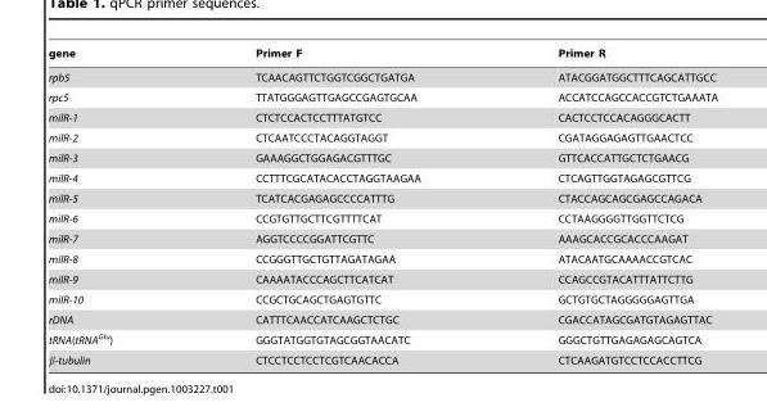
<table><thead><tr><td>gene</td><td>Primer F</td><td>Primer R</td></tr></thead><tbody><tr><td>rpb5</td><td>TCAACAGTTCTGGTCGGCTGATGA</td><td>ATACGGATGGCTTTCAGCATTGCC</td></tr><tr><td>rpc5</td><td>TTATGGGAGTTGAGCCGAGTGCAA</td><td>ACCATCCAGCCACCGTCTGAAATA</td></tr><tr><td>milR-1</td><td>CTCTCCACTCCTTTATGTCC</td><td>CACTCCTCCACAGGGCACTT</td></tr><tr><td>milR-2</td><td>CTCAATCCCTACAGGTAGGT</td><td>CGATAGGAGAGTTGAACTCC</td></tr><tr><td>milR-3</td><td>GAAAGGCTGGAGACGTTTGC</td><td>GTTCACCATTGCTCTGAACG</td></tr><tr><td>milR-4</td><td>CCTTTCGCATACACCTAGGTAAGAA</td><td>CTCAGTTGGTAGAGCGTTCG</td></tr><tr><td>milR-5</td><td>TCATCACGAGAGCCCCATTTG</td><td>CTACCAGCAGCGAGCCAGACA</td></tr><tr><td>milR-6</td><td>CCGTGTTGCTTCGTTTTCAT</td><td>CCTAAGGGGTTGGTTCTCG</td></tr><tr><td>milR-7</td><td>AGGTCCCCGGATTCGTTC</td><td>AAAGCACCGCACCCAAGAT</td></tr><tr><td>milR-8</td><td>CCGGGTTGCTGTTAGATAGAA</td><td>ATACAATGCAAAACCGTCAC</td></tr><tr><td>milR-9</td><td>CAAAATACCCAGCTTCATCAT</td><td>CCAGCCGTACATTTATTCTTG</td></tr><tr><td>milR-10</td><td>CCGCTGCAGCTGAGTGTTC</td><td>GCTGTGCTAGGGGGAGTTGA</td></tr><tr><td>rDNA</td><td>CATTTCAACCATCAAGCTCTGC</td><td>CGACCATAGCGATGTAGAGTTAC</td></tr><tr><td>tRNA(tRNA<sup>Glu</sup>)</td><td>GGGTATGGTGTAGCGGTAACATC</td><td>GGGCTGTTGAGAGAGCAGTCA</td></tr><tr><td>β-tubulin</td><td>CTCCTCCTCCTCGTCAACACCA</td><td>CTCAAGATGTCCTCCACCTTCG</td></tr></tbody></table>